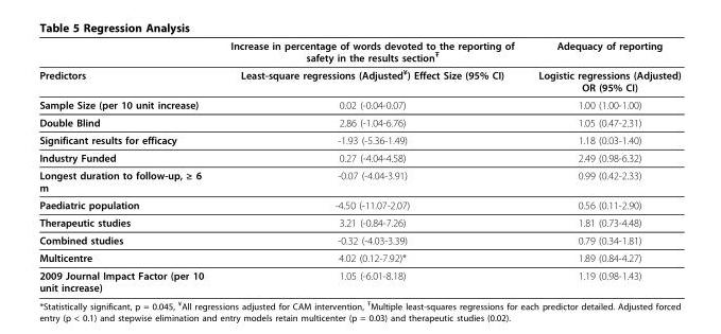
<table><thead><tr><td></td><td>Increase in percentage of words devoted to the reporting of safety in the results section<sup>Ŧ</sup></td><td>Adequacy of reporting</td></tr></thead><tbody><tr><td>Predictors</td><td>Least-square regressions (Adjusted<sup>¥</sup>) Effect Size (95% CI)</td><td>Logistic regressions (Adjusted) OR (95% CI)</td></tr><tr><td>Sample Size (per 10 unit increase)</td><td>0.02 (-0.04-0.07)</td><td>1.00 (1.00-1.00)</td></tr><tr><td>Double Blind</td><td>2.86 (-1.04-6.76)</td><td>1.05 (0.47-2.31)</td></tr><tr><td>Significant results for efficacy</td><td>-1.93 (-5.36-1.49)</td><td>1.18 (0.03-1.40)</td></tr><tr><td>Industry Funded</td><td>0.27 (-4.04-4.58)</td><td>2.49 (0.98-6.32)</td></tr><tr><td>Longest duration to follow-up, ≥ 6 m</td><td>-0.07 (-4.04-3.91)</td><td>0.99 (0.42-2.33)</td></tr><tr><td>Paediatric population</td><td>-4.50 (-11.07-2.07)</td><td>0.56 (0.11-2.90)</td></tr><tr><td>Therapeutic studies</td><td>3.21 (-0.84-7.26)</td><td>1.81 (0.73-4.48)</td></tr><tr><td>Combined studies</td><td>-0.32 (-4.03-3.39)</td><td>0.79 (0.34-1.81)</td></tr><tr><td>Multicentre</td><td>4.02 (0.12-7.92)*</td><td>1.89 (0.84-4.27)</td></tr><tr><td>2009 Journal Impact Factor (per 10 unit increase)</td><td>1.05 (-6.01-8.18)</td><td>1.19 (0.98-1.43)</td></tr></tbody></table>